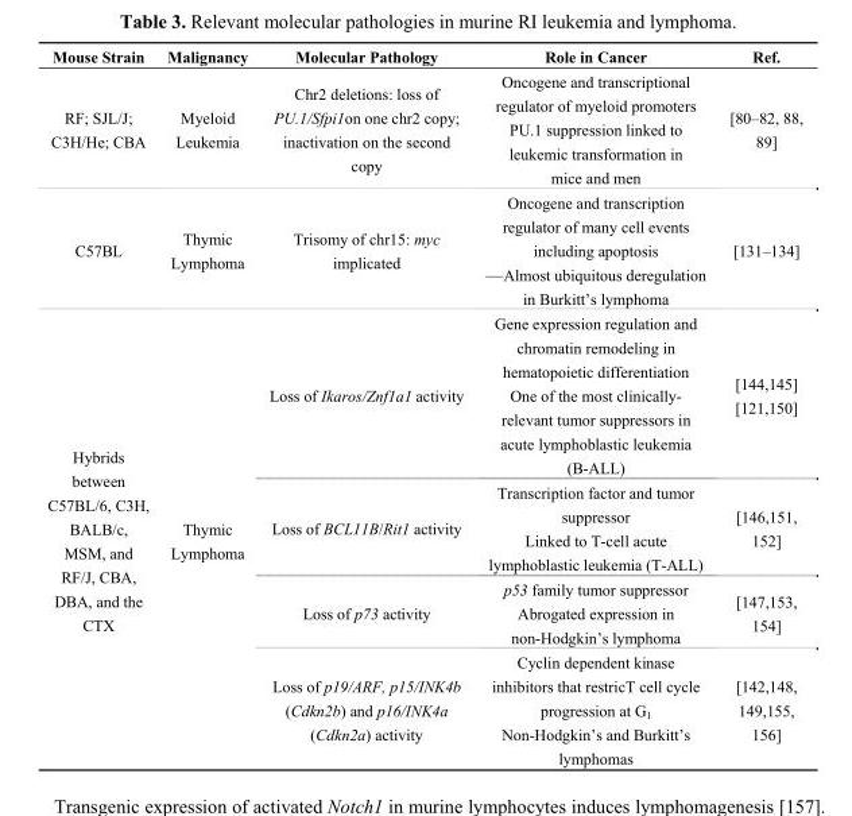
<table><thead><tr><td>Mouse Strain</td><td>Malignancy</td><td>Molecular Pathology</td><td>Role in Cancer</td><td>Ref.</td></tr></thead><tbody><tr><td>RF; SJL/J; C3H/He; CBA</td><td>Myeloid Leukemia</td><td>Chr2 deletions: loss of PU.1/Sfpi1on one chr2 copy; inactivation on the second copy</td><td>Oncogene and transcriptional regulator of myeloid promoters PU.1 suppression linked to leukemic transformation in mice and men</td><td>[80–82, 88, 89]</td></tr><tr><td>C57BL</td><td>Thymic Lymphoma</td><td>Trisomy of chr15: myc implicated</td><td>Oncogene and transcription regulator of many cell events including apoptosis —Almost ubiquitous deregulation in Burkitt’s lymphoma</td><td>[131–134]</td></tr><tr><td rowspan="4">Hybrids between C57BL/6, C3H, BALB/c, MSM, and RF/J, CBA, DBA, and the CTX</td><td rowspan="4">Thymic Lymphoma</td><td>Loss of Ikaros/Znf1a1 activity</td><td>Gene expression regulation and chromatin remodeling in hematopoietic differentiation One of the most clinically- relevant tumor suppressors in acute lymphoblastic leukemia (B-ALL)</td><td>[144,145] [121,150]</td></tr><tr><td>Loss of BCL11B/Rit1 activity</td><td>Transcription factor and tumor suppressor Linked to T-cell acute lymphoblastic leukemia (T-ALL)</td><td>[146,151, 152]</td></tr><tr><td>Loss of p73 activity</td><td>p53 family tumor suppressor Abrogated expression in non-Hodgkin’s lymphoma</td><td>[147,153, 154]</td></tr><tr><td>Loss of p19/ARF, p15/INK4b (Cdkn2b) and p16/INK4a (Cdkn2a) activity</td><td>Cyclin dependent kinase inhibitors that restricT cell cycle progression at G<sub>1</sub> Non-Hodgkin’s and Burkitt’s lymphomas</td><td>[142,148, 149,155, 156]</td></tr></tbody></table>